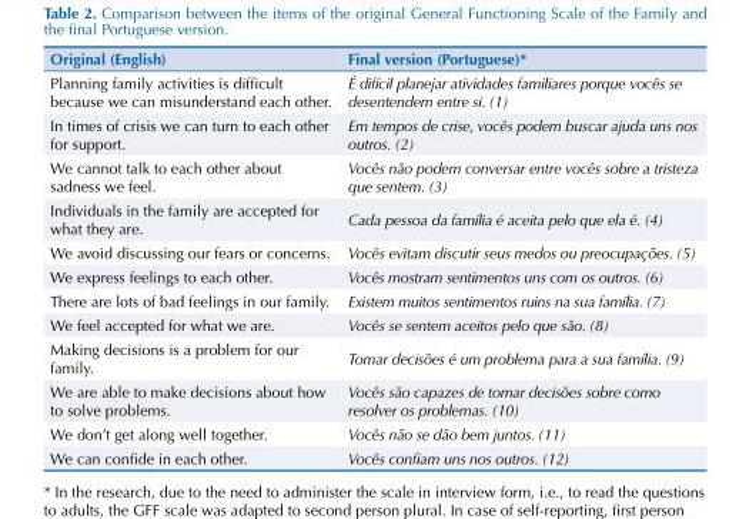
<table><thead><tr><td>Original (English)</td><td>Final version (Portuguese)*</td></tr></thead><tbody><tr><td>Planning family activities is difficult because we can misunderstand each other.</td><td>É difícil planejar atividades familiares porque vocês se desentendem entre si. (1)</td></tr><tr><td>In times of crisis we can turn to each other for support.</td><td>Em tempos de crise, vocês podem buscar ajuda uns nos outros. (2)</td></tr><tr><td>We cannot talk to each other about sadness we feel.</td><td>Vocês não podem conversar entre vocês sobre a tristeza que sentem. (3)</td></tr><tr><td>Individuals in the family are accepted for what they are.</td><td>Cada pessoa da família é aceita pelo que ela é. (4)</td></tr><tr><td>We avoid discussing our fears or concerns.</td><td>Vocês evitam discutir seus medos ou preocupações. (5)</td></tr><tr><td>We express feelings to each other.</td><td>Vocês mostram sentimentos uns com os outros. (6)</td></tr><tr><td>There are lots of bad feelings in our family.</td><td>Existem muitos sentimentos ruins na sua família. (7)</td></tr><tr><td>We feel accepted for what we are.</td><td>Vocês se sentem aceitos pelo que são. (8)</td></tr><tr><td>Making decisions is a problem for our family.</td><td>Tomar decisões é um problema para a sua família. (9)</td></tr><tr><td>We are able to make decisions about how to solve problems.</td><td>Vocês são capazes de tomar decisões sobre como resolver os problemas. (10)</td></tr><tr><td>We don’t get along well together.</td><td>Vocês não se dão bem juntos. (11)</td></tr><tr><td>We can confide in each other.</td><td>Vocês confiam uns nos outros. (12)</td></tr></tbody></table>